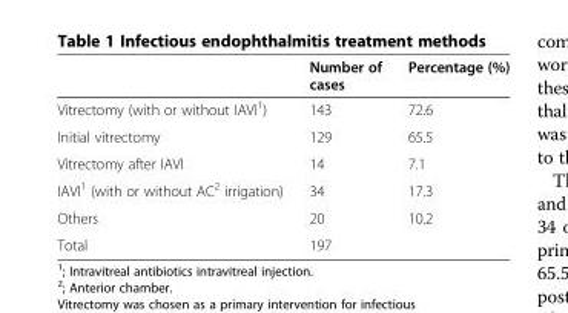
<table><thead><tr><td></td><td>Number of cases</td><td>Percentage (%)</td></tr></thead><tbody><tr><td>Vitrectomy (with or without IAVI<sup>1</sup>)</td><td>143</td><td>72.6</td></tr><tr><td>Initial vitrectomy</td><td>129</td><td>65.5</td></tr><tr><td>Vitrectomy after IAVI</td><td>14</td><td>7.1</td></tr><tr><td>IAVI<sup>1</sup> (with or without AC<sup>2</sup> irrigation)</td><td>34</td><td>17.3</td></tr><tr><td>Others</td><td>20</td><td>10.2</td></tr><tr><td>Total</td><td>197</td><td></td></tr></tbody></table>